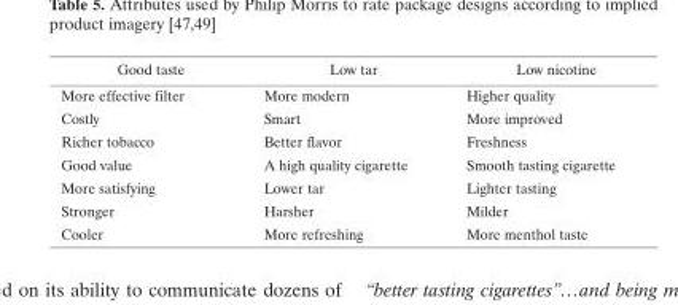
<table><thead><tr><td>Good taste</td><td>Low tar</td><td>Low nicotine</td></tr></thead><tbody><tr><td>More effective filter</td><td>More modern</td><td>Higher quality</td></tr><tr><td>Costly</td><td>Smart</td><td>More improved</td></tr><tr><td>Richer tobacco</td><td>Better flavor</td><td>Freshness</td></tr><tr><td>Good value</td><td>A high quality cigarette</td><td>Smooth tasting cigarette</td></tr><tr><td>More satisfying</td><td>Lower tar</td><td>Lighter tasting</td></tr><tr><td>Stronger</td><td>Harsher</td><td>Milder</td></tr><tr><td>Cooler</td><td>More refreshing</td><td>More menthol taste</td></tr></tbody></table>